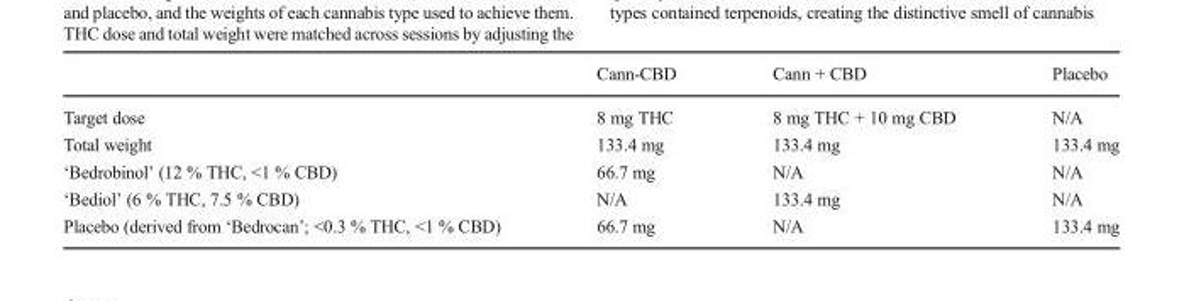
<table><thead><tr><td></td><td>Cann-CBD</td><td>Cann + CBD</td><td>Placebo</td></tr></thead><tbody><tr><td>Target dose</td><td>8 mg THC</td><td>8 mg THC + 10 mg CBD</td><td>N/A</td></tr><tr><td>Total weight</td><td>133.4 mg</td><td>133.4 mg</td><td>133.4 mg</td></tr><tr><td>‘Bedrobinol’ (12 % THC, &lt;1 % CBD)</td><td>66.7 mg</td><td>N/A</td><td>N/A</td></tr><tr><td>‘Bediol’ (6 % THC, 7.5 % CBD)</td><td>N/A</td><td>133.4 mg</td><td>N/A</td></tr><tr><td>Placebo (derived from ‘Bedrocan’; &lt;0.3 % THC, &lt;1 % CBD)</td><td>66.7 mg</td><td>N/A</td><td>133.4 mg</td></tr></tbody></table>